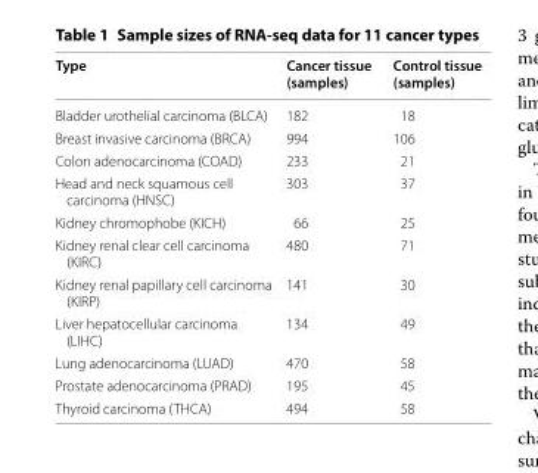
<table><thead><tr><td>Type</td><td>Cancer tissue (samples)</td><td>Control tissue (samples)</td></tr></thead><tbody><tr><td>Bladder urothelial carcinoma (BLCA)</td><td>182</td><td>18</td></tr><tr><td>Breast invasive carcinoma (BRCA)</td><td>994</td><td>106</td></tr><tr><td>Colon adenocarcinoma (COAD)</td><td>233</td><td>21</td></tr><tr><td>Head and neck squamous cell carcinoma (HNSC)</td><td>303</td><td>37</td></tr><tr><td>Kidney chromophobe (KICH)</td><td>66</td><td>25</td></tr><tr><td>Kidney renal clear cell carcinoma (KIRC)</td><td>480</td><td>71</td></tr><tr><td>Kidney renal papillary cell carcinoma (KIRP)</td><td>141</td><td>30</td></tr><tr><td>Liver hepatocellular carcinoma (LIHC)</td><td>134</td><td>49</td></tr><tr><td>Lung adenocarcinoma (LUAD)</td><td>470</td><td>58</td></tr><tr><td>Prostate adenocarcinoma (PRAD)</td><td>195</td><td>45</td></tr><tr><td>Thyroid carcinoma (THCA)</td><td>494</td><td>58</td></tr></tbody></table>